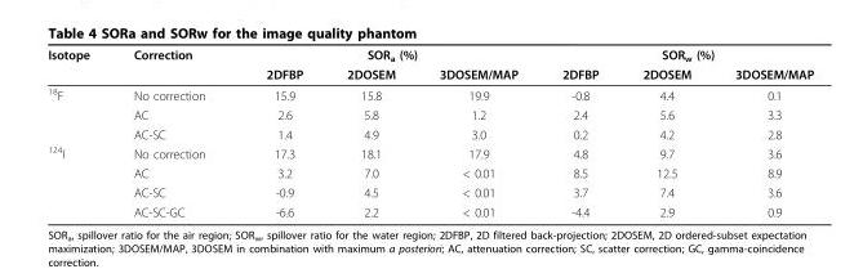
<table><thead><tr><td rowspan="2">Isotope</td><td rowspan="2">Correction</td><td colspan="3">SOR<sub>a</sub> (%)</td><td colspan="3">SOR<sub>w</sub> (%)</td></tr><tr><td>2DFBP</td><td>2DOSEM</td><td>3DOSEM/MAP</td><td>2DFBP</td><td>2DOSEM</td><td>3DOSEM/MAP</td></tr></thead><tbody><tr><td rowspan="3"><sup>18</sup>F</td><td>No correction</td><td>15.9</td><td>15.8</td><td>19.9</td><td>-0.8</td><td>4.4</td><td>0.1</td></tr><tr><td>AC</td><td>2.6</td><td>5.8</td><td>1.2</td><td>2.4</td><td>5.6</td><td>3.3</td></tr><tr><td>AC-SC</td><td>1.4</td><td>4.9</td><td>3.0</td><td>0.2</td><td>4.2</td><td>2.8</td></tr><tr><td rowspan="4"><sup>124</sup>I</td><td>No correction</td><td>17.3</td><td>18.1</td><td>17.9</td><td>4.8</td><td>9.7</td><td>3.6</td></tr><tr><td>AC</td><td>3.2</td><td>7.0</td><td>&lt; 0.01</td><td>8.5</td><td>12.5</td><td>8.9</td></tr><tr><td>AC-SC</td><td>-0.9</td><td>4.5</td><td>&lt; 0.01</td><td>3.7</td><td>7.4</td><td>3.6</td></tr><tr><td>AC-SC-GC</td><td>-6.6</td><td>2.2</td><td>&lt; 0.01</td><td>-4.4</td><td>2.9</td><td>0.9</td></tr></tbody></table>